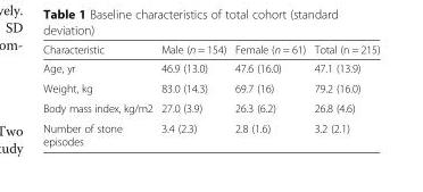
<table><thead><tr><td>Characteristic</td><td>Male (n = 154)</td><td>Female (n = 61)</td><td>Total (n = 215)</td></tr></thead><tbody><tr><td>Age, yr</td><td>46.9 (13.0)</td><td>47.6 (16.0)</td><td>47.1 (13.9)</td></tr><tr><td>Weight, kg</td><td>83.0 (14.3)</td><td>69.7 (16)</td><td>79.2 (16.0)</td></tr><tr><td>Body mass index, kg/m2</td><td>27.0 (3.9)</td><td>26.3 (6.2)</td><td>26.8 (4.6)</td></tr><tr><td>Number of stone episodes</td><td>3.4 (2.3)</td><td>2.8 (1.6)</td><td>3.2 (2.1)</td></tr></tbody></table>